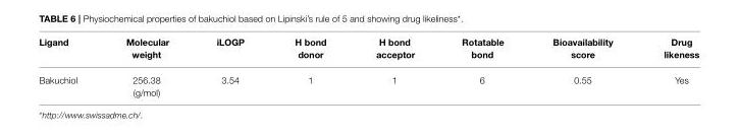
<table><thead><tr><td>Ligand</td><td>Molecular weight</td><td>iLOGP</td><td>H bond donor</td><td>H bond acceptor</td><td>Rotatable bond</td><td>Bioavailability score</td><td>Drug likeness</td></tr></thead><tbody><tr><td>Bakuchiol</td><td>256.38 (g/mol)</td><td>3.54</td><td>1</td><td>1</td><td>6</td><td>0.55</td><td>Yes</td></tr></tbody></table>